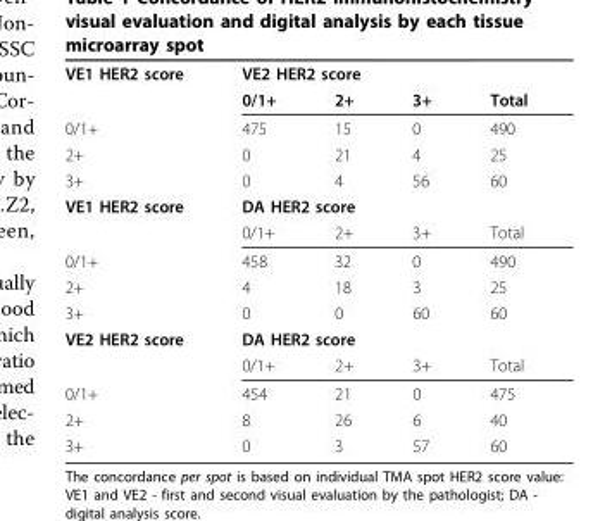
<table><tbody><tr><td rowspan="2">VE1 HER2 score</td><td colspan="4">VE2 HER2 score</td></tr><tr><td>0/1+</td><td>2+</td><td>3+</td><td>Total</td></tr><tr><td>0/1+</td><td>475</td><td>15</td><td>0</td><td>490</td></tr><tr><td>2+</td><td>0</td><td>21</td><td>4</td><td>25</td></tr><tr><td>3+</td><td>0</td><td>4</td><td>56</td><td>60</td></tr><tr><td rowspan="2">VE1 HER2 score</td><td colspan="4">DA HER2 score</td></tr><tr><td>0/1+</td><td>2+</td><td>3+</td><td>Total</td></tr><tr><td>0/1+</td><td>458</td><td>32</td><td>0</td><td>490</td></tr><tr><td>2+</td><td>4</td><td>18</td><td>3</td><td>25</td></tr><tr><td>3+</td><td>0</td><td>0</td><td>60</td><td>60</td></tr><tr><td rowspan="2">VE2 HER2 score</td><td colspan="4">DA HER2 score</td></tr><tr><td>0/1+</td><td>2+</td><td>3+</td><td>Total</td></tr><tr><td>0/1+</td><td>454</td><td>21</td><td>0</td><td>475</td></tr><tr><td>2+</td><td>8</td><td>26</td><td>6</td><td>40</td></tr><tr><td>3+</td><td>0</td><td>3</td><td>57</td><td>60</td></tr></tbody></table>